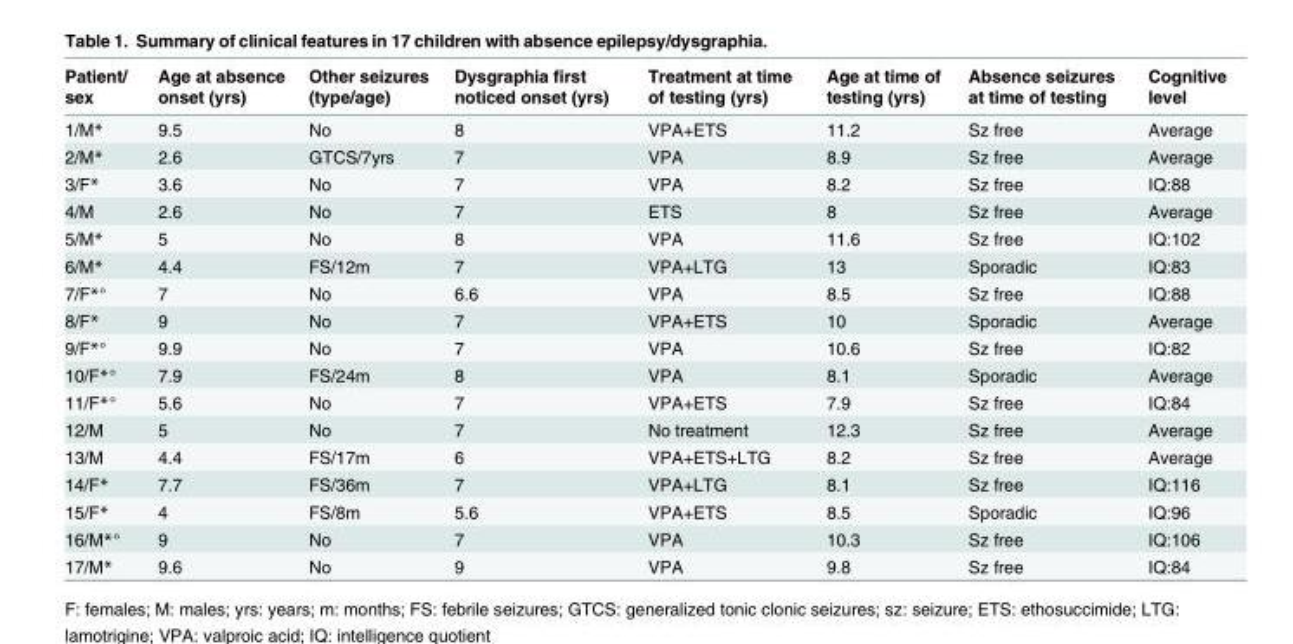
<table><thead><tr><td>Patient/ sex</td><td>Age at absence onset (yrs)</td><td>Other seizures (type/age)</td><td>Dysgraphia first noticed onset (yrs)</td><td>Treatment at time of testing (yrs)</td><td>Age at time of testing (yrs)</td><td>Absence seizures at time of testing</td><td>Cognitive level</td></tr></thead><tbody><tr><td>1/M*</td><td>9.5</td><td>No</td><td>8</td><td>VPA+ETS</td><td>11.2</td><td>Sz free</td><td>Average</td></tr><tr><td>2/M*</td><td>2.6</td><td>GTCS/7yrs</td><td>7</td><td>VPA</td><td>8.9</td><td>Sz free</td><td>Average</td></tr><tr><td>3/F*</td><td>3.6</td><td>No</td><td>7</td><td>VPA</td><td>8.2</td><td>Sz free</td><td>IQ:88</td></tr><tr><td>4/M</td><td>2.6</td><td>No</td><td>7</td><td>ETS</td><td>8</td><td>Sz free</td><td>Average</td></tr><tr><td>5/M*</td><td>5</td><td>No</td><td>8</td><td>VPA</td><td>11.6</td><td>Sz free</td><td>IQ:102</td></tr><tr><td>6/M*</td><td>4.4</td><td>FS/12m</td><td>7</td><td>VPA+LTG</td><td>13</td><td>Sporadic</td><td>IQ:83</td></tr><tr><td>7/F*°</td><td>7</td><td>No</td><td>6.6</td><td>VPA</td><td>8.5</td><td>Sz free</td><td>IQ:88</td></tr><tr><td>8/F*</td><td>9</td><td>No</td><td>7</td><td>VPA+ETS</td><td>10</td><td>Sporadic</td><td>Average</td></tr><tr><td>9/F*°</td><td>9.9</td><td>No</td><td>7</td><td>VPA</td><td>10.6</td><td>Sz free</td><td>IQ:82</td></tr><tr><td>10/F*°</td><td>7.9</td><td>FS/24m</td><td>8</td><td>VPA</td><td>8.1</td><td>Sporadic</td><td>Average</td></tr><tr><td>11/F*°</td><td>5.6</td><td>No</td><td>7</td><td>VPA+ETS</td><td>7.9</td><td>Sz free</td><td>IQ:84</td></tr><tr><td>12/M</td><td>5</td><td>No</td><td>7</td><td>No treatment</td><td>12.3</td><td>Sz free</td><td>Average</td></tr><tr><td>13/M</td><td>4.4</td><td>FS/17m</td><td>6</td><td>VPA+ETS+LTG</td><td>8.2</td><td>Sz free</td><td>Average</td></tr><tr><td>14/F*</td><td>7.7</td><td>FS/36m</td><td>7</td><td>VPA+LTG</td><td>8.1</td><td>Sz free</td><td>IQ:116</td></tr><tr><td>15/F*</td><td>4</td><td>FS/8m</td><td>5.6</td><td>VPA+ETS</td><td>8.5</td><td>Sporadic</td><td>IQ:96</td></tr><tr><td>16/M*°</td><td>9</td><td>No</td><td>7</td><td>VPA</td><td>10.3</td><td>Sz free</td><td>IQ:106</td></tr><tr><td>17/M*</td><td>9.6</td><td>No</td><td>9</td><td>VPA</td><td>9.8</td><td>Sz free</td><td>IQ:84</td></tr></tbody></table>